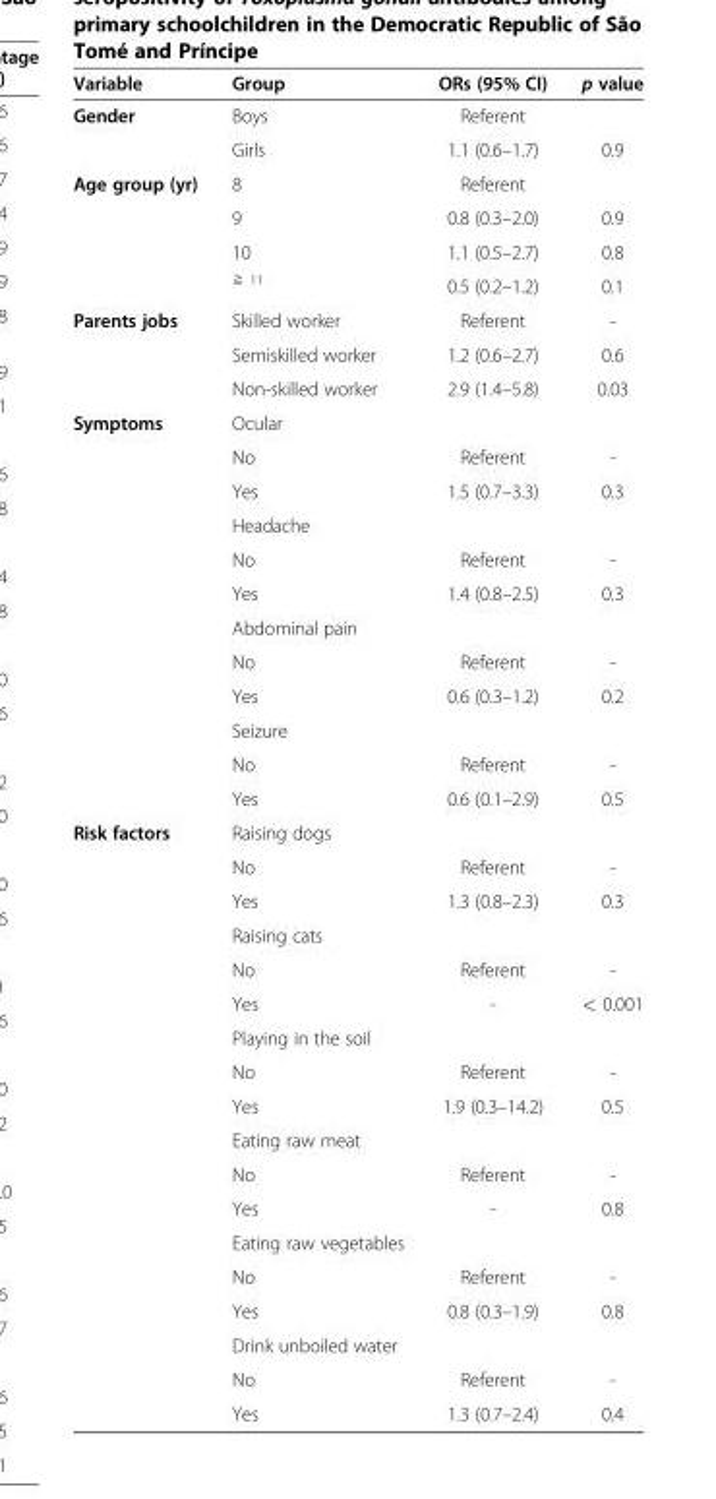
<table><thead><tr><td>Variable</td><td>Group</td><td>ORs (95% CI)</td><td>p value</td></tr></thead><tbody><tr><td rowspan="2">Gender</td><td>Boys</td><td>Referent</td><td></td></tr><tr><td>Girls</td><td>1.1 (0.6–1.7)</td><td>0.9</td></tr><tr><td rowspan="4">Age group (yr)</td><td>8</td><td>Referent</td><td></td></tr><tr><td>9</td><td>0.8 (0.3–2.0)</td><td>0.9</td></tr><tr><td>10</td><td>1.1 (0.5–2.7)</td><td>0.8</td></tr><tr><td><sup>≧ 11</sup></td><td>0.5 (0.2–1.2)</td><td>0.1</td></tr><tr><td rowspan="3">Parents jobs</td><td>Skilled worker</td><td>Referent</td><td>-</td></tr><tr><td>Semiskilled worker</td><td>1.2 (0.6–2.7)</td><td>0.6</td></tr><tr><td>Non-skilled worker</td><td>2.9 (1.4–5.8)</td><td>0.03</td></tr><tr><td rowspan="12">Symptoms</td><td>Ocular</td><td></td><td></td></tr><tr><td>No</td><td>Referent</td><td>-</td></tr><tr><td>Yes</td><td>1.5 (0.7–3.3)</td><td>0.3</td></tr><tr><td>Headache</td><td></td><td></td></tr><tr><td>No</td><td>Referent</td><td>-</td></tr><tr><td>Yes</td><td>1.4 (0.8–2.5)</td><td>0.3</td></tr><tr><td>Abdominal pain</td><td></td><td></td></tr><tr><td>No</td><td>Referent</td><td>-</td></tr><tr><td>Yes</td><td>0.6 (0.3–1.2)</td><td>0.2</td></tr><tr><td>Seizure</td><td></td><td></td></tr><tr><td>No</td><td>Referent</td><td>-</td></tr><tr><td>Yes</td><td>0.6 (0.1–2.9)</td><td>0.5</td></tr><tr><td rowspan="18">Risk factors</td><td>Raising dogs</td><td></td><td></td></tr><tr><td>No</td><td>Referent</td><td>-</td></tr><tr><td>Yes</td><td>1.3 (0.8–2.3)</td><td>0.3</td></tr><tr><td>Raising cats</td><td></td><td></td></tr><tr><td>No</td><td>Referent</td><td>-</td></tr><tr><td>Yes</td><td>-</td><td>&lt; 0.001</td></tr><tr><td>Playing in the soil</td><td></td><td></td></tr><tr><td>No</td><td>Referent</td><td>-</td></tr><tr><td>Yes</td><td>1.9 (0.3–14.2)</td><td>0.5</td></tr><tr><td>Eating raw meat</td><td></td><td></td></tr><tr><td>No</td><td>Referent</td><td>-</td></tr><tr><td>Yes</td><td>-</td><td>0.8</td></tr><tr><td>Eating raw vegetables</td><td></td><td></td></tr><tr><td>No</td><td>Referent</td><td>-</td></tr><tr><td>Yes</td><td>0.8 (0.3–1.9)</td><td>0.8</td></tr><tr><td>Drink unboiled water</td><td></td><td></td></tr><tr><td>No</td><td>Referent</td><td>-</td></tr><tr><td>Yes</td><td>1.3 (0.7–2.4)</td><td>0.4</td></tr></tbody></table>